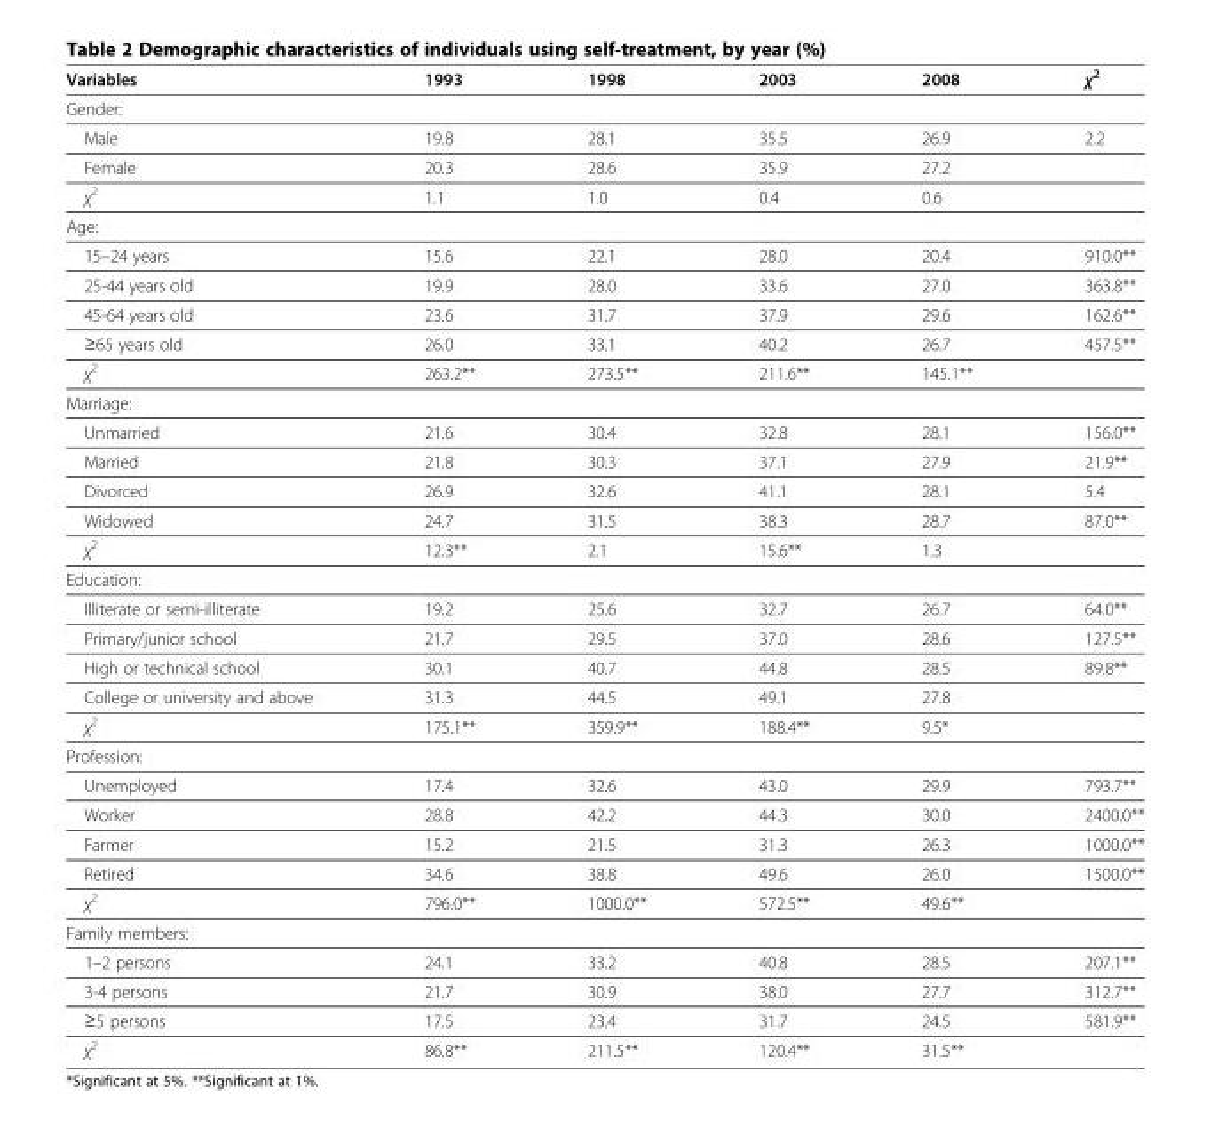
<table><thead><tr><td>Variables</td><td>1993</td><td>1998</td><td>2003</td><td>2008</td><td>χ<sup>2</sup></td></tr></thead><tbody><tr><td colspan="6">Gender:</td></tr><tr><td>Male</td><td>19.8</td><td>28.1</td><td>35.5</td><td>26.9</td><td>2.2</td></tr><tr><td>Female</td><td>20.3</td><td>28.6</td><td>35.9</td><td>27.2</td><td></td></tr><tr><td>χ<sup>2</sup></td><td>1.1</td><td>1.0</td><td>0.4</td><td>0.6</td><td></td></tr><tr><td colspan="6">Age:</td></tr><tr><td>15–24 years</td><td>15.6</td><td>22.1</td><td>28.0</td><td>20.4</td><td>910.0**</td></tr><tr><td>25-44 years old</td><td>19.9</td><td>28.0</td><td>33.6</td><td>27.0</td><td>363.8**</td></tr><tr><td>45-64 years old</td><td>23.6</td><td>31.7</td><td>37.9</td><td>29.6</td><td>162.6**</td></tr><tr><td>≥65 years old</td><td>26.0</td><td>33.1</td><td>40.2</td><td>26.7</td><td>457.5**</td></tr><tr><td>χ<sup>2</sup></td><td>263.2**</td><td>273.5**</td><td>211.6**</td><td>145.1**</td><td></td></tr><tr><td colspan="6">Marriage:</td></tr><tr><td>Unmarried</td><td>21.6</td><td>30.4</td><td>32.8</td><td>28.1</td><td>156.0**</td></tr><tr><td>Married</td><td>21.8</td><td>30.3</td><td>37.1</td><td>27.9</td><td>21.9**</td></tr><tr><td>Divorced</td><td>26.9</td><td>32.6</td><td>41.1</td><td>28.1</td><td>5.4</td></tr><tr><td>Widowed</td><td>24.7</td><td>31.5</td><td>38.3</td><td>28.7</td><td>87.0**</td></tr><tr><td>χ<sup>2</sup></td><td>12.3**</td><td>2.1</td><td>15.6**</td><td>1.3</td><td></td></tr><tr><td colspan="6">Education:</td></tr><tr><td>Illiterate or semi-illiterate</td><td>19.2</td><td>25.6</td><td>32.7</td><td>26.7</td><td>64.0**</td></tr><tr><td>Primary/junior school</td><td>21.7</td><td>29.5</td><td>37.0</td><td>28.6</td><td>127.5**</td></tr><tr><td>High or technical school</td><td>30.1</td><td>40.7</td><td>44.8</td><td>28.5</td><td>89.8**</td></tr><tr><td>College or university and above</td><td>31.3</td><td>44.5</td><td>49.1</td><td>27.8</td><td></td></tr><tr><td>χ<sup>2</sup></td><td>175.1**</td><td>359.9**</td><td>188.4**</td><td>9.5*</td><td></td></tr><tr><td colspan="6">Profession:</td></tr><tr><td>Unemployed</td><td>17.4</td><td>32.6</td><td>43.0</td><td>29.9</td><td>793.7**</td></tr><tr><td>Worker</td><td>28.8</td><td>42.2</td><td>44.3</td><td>30.0</td><td>2400.0**</td></tr><tr><td>Farmer</td><td>15.2</td><td>21.5</td><td>31.3</td><td>26.3</td><td>1000.0**</td></tr><tr><td>Retired</td><td>34.6</td><td>38.8</td><td>49.6</td><td>26.0</td><td>1500.0**</td></tr><tr><td>χ<sup>2</sup></td><td>796.0**</td><td>1000.0**</td><td>572.5**</td><td>49.6**</td><td></td></tr><tr><td colspan="6">Family members:</td></tr><tr><td>1–2 persons</td><td>24.1</td><td>33.2</td><td>40.8</td><td>28.5</td><td>207.1**</td></tr><tr><td>3-4 persons</td><td>21.7</td><td>30.9</td><td>38.0</td><td>27.7</td><td>312.7**</td></tr><tr><td>≥5 persons</td><td>17.5</td><td>23.4</td><td>31.7</td><td>24.5</td><td>581.9**</td></tr><tr><td>χ<sup>2</sup></td><td>86.8**</td><td>211.5**</td><td>120.4**</td><td>31.5**</td><td></td></tr></tbody></table>